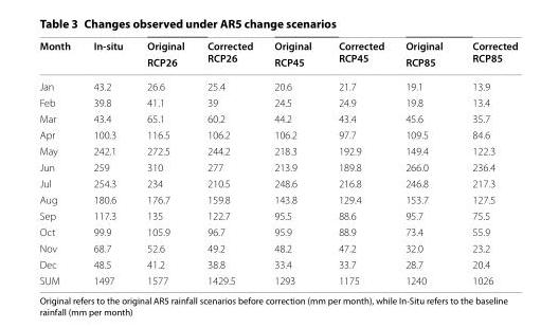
<table><thead><tr><td rowspan="2">Month</td><td rowspan="2">In‑situ</td><td rowspan="2">Original RCP26</td><td rowspan="2">Corrected RCP26</td><td rowspan="2">Original RCP45</td><td rowspan="2">Corrected RCP45</td><td rowspan="2">Original RCP85</td><td rowspan="2">Corrected RCP85</td></tr><tr></tr></thead><tbody><tr><td>Jan</td><td>43.2</td><td>26.6</td><td>25.4</td><td>20.6</td><td>21.7</td><td>19.1</td><td>13.9</td></tr><tr><td>Feb</td><td>39.8</td><td>41.1</td><td>39</td><td>24.5</td><td>24.9</td><td>19.8</td><td>13.4</td></tr><tr><td>Mar</td><td>43.4</td><td>65.1</td><td>60.2</td><td>44.2</td><td>43.4</td><td>45.6</td><td>35.7</td></tr><tr><td>Apr</td><td>100.3</td><td>116.5</td><td>106.2</td><td>106.2</td><td>97.7</td><td>109.5</td><td>84.6</td></tr><tr><td>May</td><td>242.1</td><td>272.5</td><td>244.2</td><td>218.3</td><td>192.9</td><td>149.4</td><td>122.3</td></tr><tr><td>Jun</td><td>259</td><td>310</td><td>277</td><td>213.9</td><td>189.8</td><td>266.0</td><td>236.4</td></tr><tr><td>Jul</td><td>254.3</td><td>234</td><td>210.5</td><td>248.6</td><td>216.8</td><td>246.8</td><td>217.3</td></tr><tr><td>Aug</td><td>180.6</td><td>176.7</td><td>159.8</td><td>143.8</td><td>129.4</td><td>153.7</td><td>127.5</td></tr><tr><td>Sep</td><td>117.3</td><td>135</td><td>122.7</td><td>95.5</td><td>88.6</td><td>95.7</td><td>75.5</td></tr><tr><td>Oct</td><td>99.9</td><td>105.9</td><td>96.7</td><td>95.9</td><td>88.9</td><td>73.4</td><td>55.9</td></tr><tr><td>Nov</td><td>68.7</td><td>52.6</td><td>49.2</td><td>48.2</td><td>47.2</td><td>32.0</td><td>23.2</td></tr><tr><td>Dec</td><td>48.5</td><td>41.2</td><td>38.8</td><td>33.4</td><td>33.7</td><td>28.7</td><td>20.4</td></tr><tr><td>SUM</td><td>1497</td><td>1577</td><td>1429.5</td><td>1293</td><td>1175</td><td>1240</td><td>1026</td></tr></tbody></table>